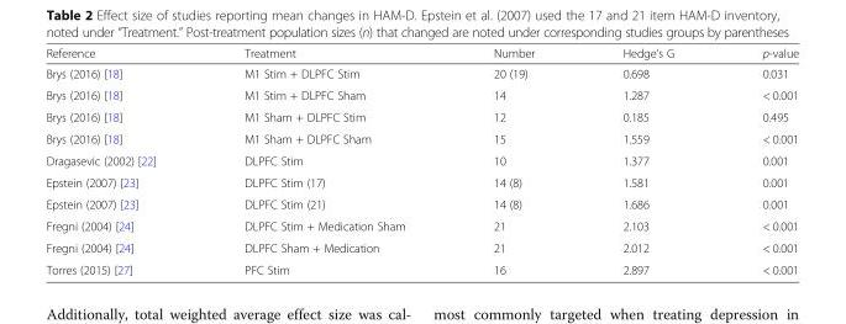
<table><thead><tr><td>Reference</td><td>Treatment</td><td>Number</td><td>Hedge’s G</td><td>p-value</td></tr></thead><tbody><tr><td>Brys (2016) [18]</td><td>M1 Stim + DLPFC Stim</td><td>20 (19)</td><td>0.698</td><td>0.031</td></tr><tr><td>Brys (2016) [18]</td><td>M1 Stim + DLPFC Sham</td><td>14</td><td>1.287</td><td>&lt; 0.001</td></tr><tr><td>Brys (2016) [18]</td><td>M1 Sham + DLPFC Stim</td><td>12</td><td>0.185</td><td>0.495</td></tr><tr><td>Brys (2016) [18]</td><td>M1 Sham + DLPFC Sham</td><td>15</td><td>1.559</td><td>&lt; 0.001</td></tr><tr><td>Dragasevic (2002) [22]</td><td>DLPFC Stim</td><td>10</td><td>1.377</td><td>0.001</td></tr><tr><td>Epstein (2007) [23]</td><td>DLPFC Stim (17)</td><td>14 (8)</td><td>1.581</td><td>0.001</td></tr><tr><td>Epstein (2007) [23]</td><td>DLPFC Stim (21)</td><td>14 (8)</td><td>1.686</td><td>0.001</td></tr><tr><td>Fregni (2004) [24]</td><td>DLPFC Stim + Medication Sham</td><td>21</td><td>2.103</td><td>&lt; 0.001</td></tr><tr><td>Fregni (2004) [24]</td><td>DLPFC Sham + Medication</td><td>21</td><td>2.012</td><td>&lt; 0.001</td></tr><tr><td>Torres (2015) [27]</td><td>PFC Stim</td><td>16</td><td>2.897</td><td>&lt; 0.001</td></tr></tbody></table>